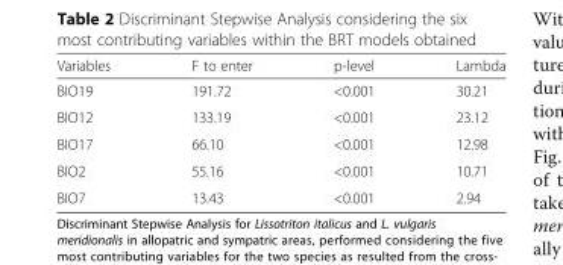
<table><thead><tr><td>Variables</td><td>F to enter</td><td>p-level</td><td>Lambda</td></tr></thead><tbody><tr><td>BIO19</td><td>191.72</td><td>&lt;0.001</td><td>30.21</td></tr><tr><td>BIO12</td><td>133.19</td><td>&lt;0.001</td><td>23.12</td></tr><tr><td>BIO17</td><td>66.10</td><td>&lt;0.001</td><td>12.98</td></tr><tr><td>BIO2</td><td>55.16</td><td>&lt;0.001</td><td>10.71</td></tr><tr><td>BIO7</td><td>13.43</td><td>&lt;0.001</td><td>2.94</td></tr></tbody></table>